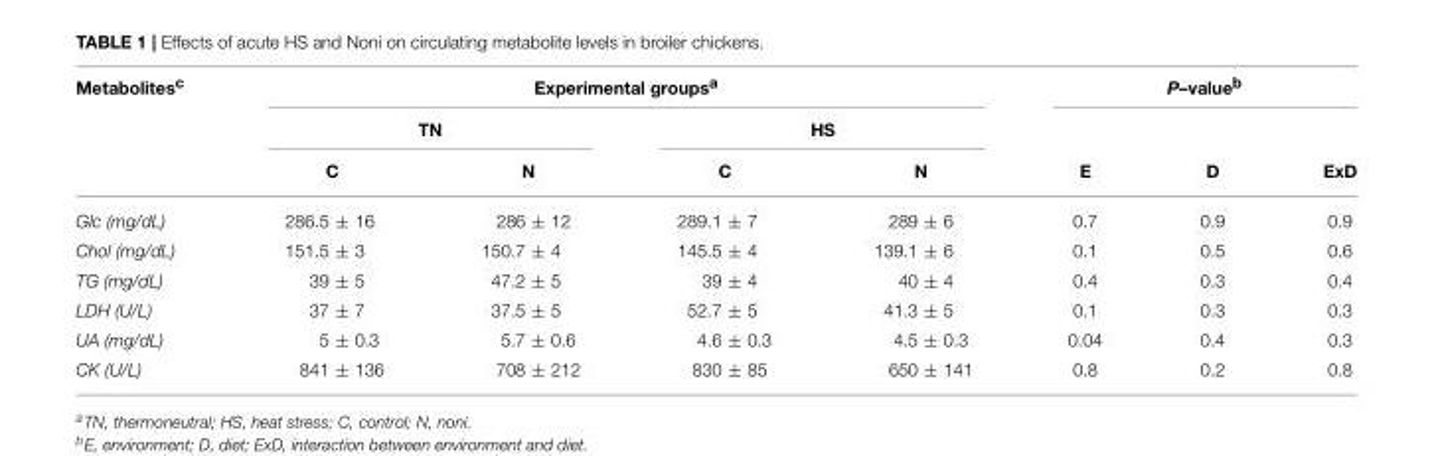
<table><thead><tr><td rowspan="3">Metabolites<sup>c</sup></td><td colspan="4">Experimental groups<sup>a</sup></td><td colspan="3">P–value<sup>b</sup></td></tr><tr><td colspan="2">TN</td><td colspan="2">HS</td><td rowspan="2">E</td><td rowspan="2">D</td><td rowspan="2">ExD</td></tr><tr><td>C</td><td>N</td><td>C</td><td>N</td></tr></thead><tbody><tr><td>Glc (mg/dL)</td><td>286.5 ± 16</td><td>286 ± 12</td><td>289.1 ± 7</td><td>289 ± 6</td><td>0.7</td><td>0.9</td><td>0.9</td></tr><tr><td>Chol (mg/dL)</td><td>151.5 ± 3</td><td>150.7 ± 4</td><td>145.5 ± 4</td><td>139.1 ± 6</td><td>0.1</td><td>0.5</td><td>0.6</td></tr><tr><td>TG (mg/dL)</td><td>39 ± 5</td><td>47.2 ± 5</td><td>39 ± 4</td><td>40 ± 4</td><td>0.4</td><td>0.3</td><td>0.4</td></tr><tr><td>LDH (U/L)</td><td>37 ± 7</td><td>37.5 ± 5</td><td>52.7 ± 5</td><td>41.3 ± 5</td><td>0.1</td><td>0.3</td><td>0.3</td></tr><tr><td>UA (mg/dL)</td><td>5 ± 0.3</td><td>5.7 ± 0.6</td><td>4.6 ± 0.3</td><td>4.5 ± 0.3</td><td>0.04</td><td>0.4</td><td>0.3</td></tr><tr><td>CK (U/L)</td><td>841 ± 136</td><td>708 ± 212</td><td>830 ± 85</td><td>650 ± 141</td><td>0.8</td><td>0.2</td><td>0.8</td></tr></tbody></table>